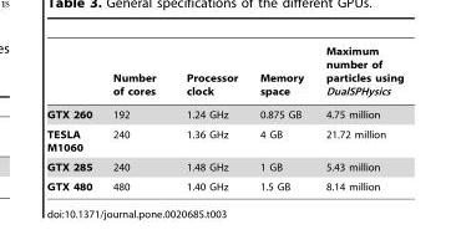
<table><thead><tr><td></td><td>Number of cores</td><td>Processor clock</td><td>Memory space</td><td>Maximum number of particles using DualSPHysics</td></tr></thead><tbody><tr><td>GTX 260</td><td>192</td><td>1.24 GHz</td><td>0.875 GB</td><td>4.75 million</td></tr><tr><td>TESLA M1060</td><td>240</td><td>1.36 GHz</td><td>4 GB</td><td>21.72 million</td></tr><tr><td>GTX 285</td><td>240</td><td>1.48 GHz</td><td>1 GB</td><td>5.43 million</td></tr><tr><td>GTX 480</td><td>480</td><td>1.40 GHz</td><td>1.5 GB</td><td>8.14 million</td></tr></tbody></table>